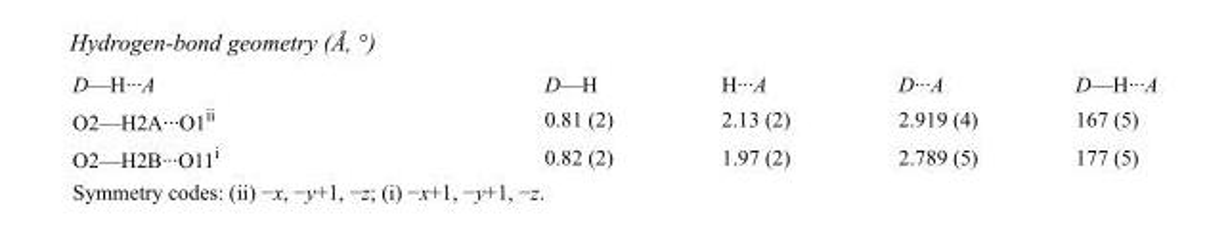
<table><tbody><tr><td>D—H···A</td><td>D—H</td><td>H···A</td><td>D···A</td><td>D—H···A</td></tr><tr><td>O2—H2A···O1<sup>ii</sup></td><td>0.81 (2)</td><td>2.13 (2)</td><td>2.919 (4)</td><td>167 (5)</td></tr><tr><td>O2—H2B···O11<sup>i</sup></td><td>0.82 (2)</td><td>1.97 (2)</td><td>2.789 (5)</td><td>177 (5)</td></tr></tbody></table>